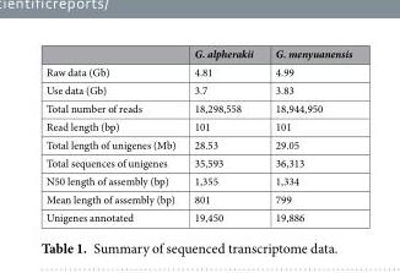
<table><thead><tr><td></td><td>G. alpherakii</td><td>G. menyuanensis</td></tr></thead><tbody><tr><td>Raw data (Gb)</td><td>4.81</td><td>4.99</td></tr><tr><td>Use data (Gb)</td><td>3.7</td><td>3.83</td></tr><tr><td>Total number of reads</td><td>18,298,558</td><td>18,944,950</td></tr><tr><td>Read length (bp)</td><td>101</td><td>101</td></tr><tr><td>Total length of unigenes (Mb)</td><td>28.53</td><td>29.05</td></tr><tr><td>Total sequences of unigenes</td><td>35,593</td><td>36,313</td></tr><tr><td>N50 length of assembly (bp)</td><td>1,355</td><td>1,334</td></tr><tr><td>Mean length of assembly (bp)</td><td>801</td><td>799</td></tr><tr><td>Unigenes annotated</td><td>19,450</td><td>19,886</td></tr></tbody></table>